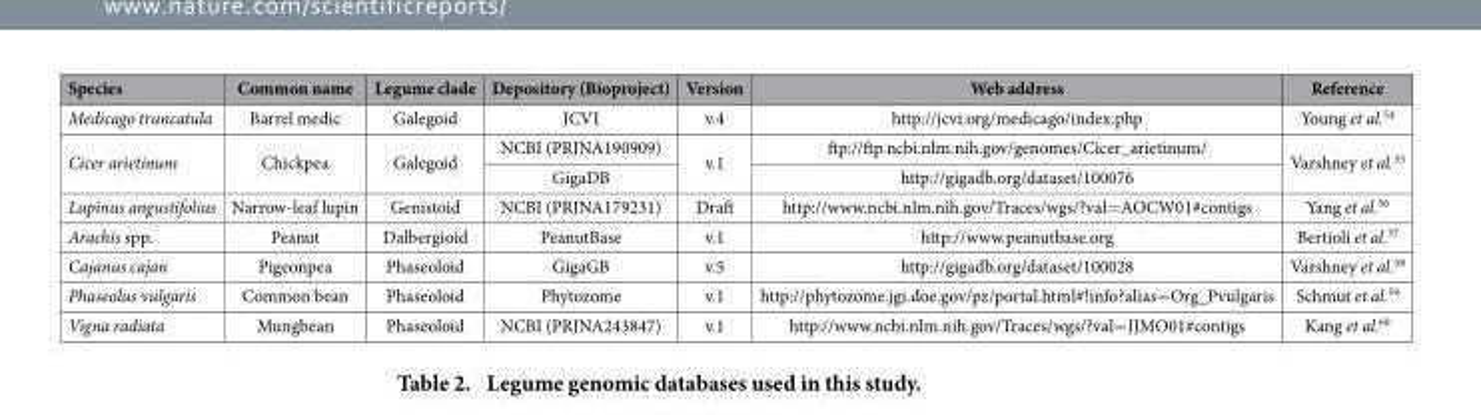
<table><thead><tr><td>Species</td><td>Common name</td><td>Legume clade</td><td>Depository (Bioproject)</td><td>Version</td><td>Web address</td><td>Reference</td></tr></thead><tbody><tr><td>Medicago truncatula</td><td>Barrel medic</td><td>Galegoid</td><td>JCVI</td><td>v.4</td><td>http://jcvi.org/medicago/index.php</td><td>Young et al.<sup>54</sup></td></tr><tr><td rowspan="2">Cicer arietinum</td><td rowspan="2">Chickpea</td><td rowspan="2">Galegoid</td><td>NCBI (PRJNA190909)</td><td rowspan="2">v.1</td><td>ftp://ftp.ncbi.nlm.nih.gov/genomes/Cicer_arietinum/</td><td rowspan="2">Varshney et al.<sup>55</sup></td></tr><tr><td>GigaDB</td><td>http://gigadb.org/dataset/100076</td></tr><tr><td>Lupinus angustifolius</td><td>Narrow-leaf lupin</td><td>Genistoid</td><td>NCBI (PRJNA179231)</td><td>Draft</td><td>http://www.ncbi.nlm.nih.gov/Traces/wgs/?val= AOCW01#contigs</td><td>Yang et al.<sup>56</sup></td></tr><tr><td>Arachis spp.</td><td>Peanut</td><td>Dalbergioid</td><td>PeanutBase</td><td>v.1</td><td>http://www.peanutbase.org</td><td>Bertioli et al.<sup>57</sup></td></tr><tr><td>Cajanus cajan</td><td>Pigeonpea</td><td>Phaseoloid</td><td>GigaGB</td><td>v.5</td><td>http://gigadb.org/dataset/100028</td><td>Varshney et al.<sup>58</sup></td></tr><tr><td>Phaseolus vulgaris</td><td>Common bean</td><td>Phaseoloid</td><td>Phytozome</td><td>v.1</td><td>http://phytozome.jgi.doe.gov/pz/portal.html#!info?alias= Org_Pvulgaris</td><td>Schmut et al.<sup>59</sup></td></tr><tr><td>Vigna radiata</td><td>Mungbean</td><td>Phaseoloid</td><td>NCBI (PRJNA243847)</td><td>v.1</td><td>http://www.ncbi.nlm.nih.gov/Traces/wgs/?val= JJMO01#contigs</td><td>Kang et al.<sup>60</sup></td></tr></tbody></table>